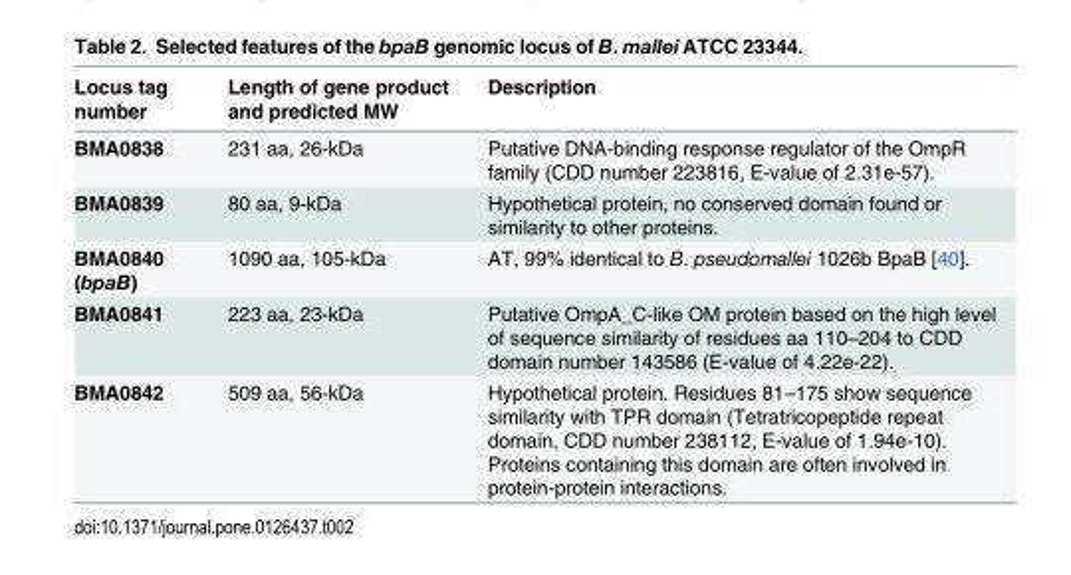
<table><thead><tr><td>Locus tag number</td><td>Length of gene product and predicted MW</td><td>Description</td></tr></thead><tbody><tr><td>BMA0838</td><td>231 aa, 26-kDa</td><td>Putative DNA-binding response regulator of the OmpR family (CDD number 223816, E-value of 2.31e-57).</td></tr><tr><td>BMA0839</td><td>80 aa, 9-kDa</td><td>Hypothetical protein, no conserved domain found or similarity to other proteins.</td></tr><tr><td>BMA0840 (bpaB)</td><td>1090 aa, 105-kDa</td><td>AT, 99% identical to B. pseudomallei 1026b BpaB [40].</td></tr><tr><td>BMA0841</td><td>223 aa, 23-kDa</td><td>Putative OmpA_C-like OM protein based on the high level of sequence similarity of residues aa 110–204 to CDD domain number 143586 (E-value of 4.22e-22).</td></tr><tr><td>BMA0842</td><td>509 aa, 56-kDa</td><td>Hypothetical protein. Residues 81–175 show sequence similarity with TPR domain (Tetratricopeptide repeat domain, CDD number 238112, E-value of 1.94e-10). Proteins containing this domain are often involved in protein-protein interactions.</td></tr></tbody></table>